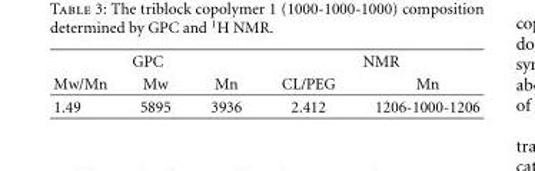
<table><thead><tr><td colspan="3">GPC</td><td colspan="2">NMR</td></tr><tr><td>Mw/Mn</td><td>Mw</td><td>Mn</td><td>CL/PEG</td><td>Mn</td></tr></thead><tbody><tr><td>1.49</td><td>5895</td><td>3936</td><td>2.412</td><td>1206-1000-1206</td></tr></tbody></table>